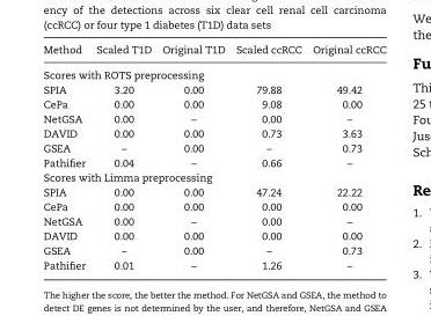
<table><thead><tr><td>Method</td><td>Scaled T1D</td><td>Original T1D</td><td>Scaled ccRCC</td><td>Original ccRCC</td></tr></thead><tbody><tr><td colspan="5">Scores with ROTS preprocessing</td></tr><tr><td>SPIA</td><td>3.20</td><td>0.00</td><td>79.88</td><td>49.42</td></tr><tr><td>CePa</td><td>0.00</td><td>0.00</td><td>9.08</td><td>0.00</td></tr><tr><td>NetGSA</td><td>0.00</td><td>–</td><td>0.00</td><td>–</td></tr><tr><td>DAVID</td><td>0.00</td><td>0.00</td><td>0.73</td><td>3.63</td></tr><tr><td>GSEA</td><td>–</td><td>0.00</td><td>–</td><td>0.73</td></tr><tr><td>Pathifier</td><td>0.04</td><td>–</td><td>0.66</td><td>–</td></tr><tr><td colspan="5">Scores with Limma preprocessing</td></tr><tr><td>SPIA</td><td>0.00</td><td>0.00</td><td>47.24</td><td>22.22</td></tr><tr><td>CePa</td><td>0.00</td><td>0.00</td><td>0.00</td><td>0.00</td></tr><tr><td>NetGSA</td><td>0.00</td><td>–</td><td>0.00</td><td>–</td></tr><tr><td>DAVID</td><td>0.00</td><td>0.00</td><td>0.00</td><td>0.00</td></tr><tr><td>GSEA</td><td>–</td><td>0.00</td><td>–</td><td>0.73</td></tr><tr><td>Pathifier</td><td>0.01</td><td>–</td><td>1.26</td><td>–</td></tr></tbody></table>